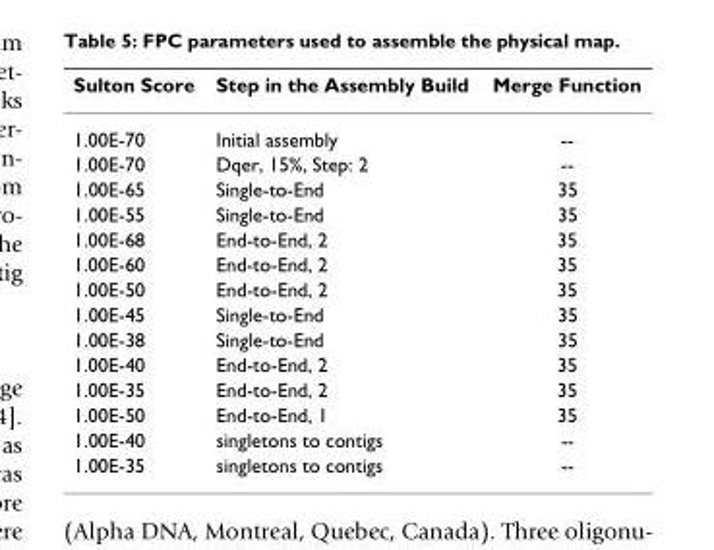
<table><thead><tr><td>Sulton Score</td><td>Step in the Assembly Build</td><td>Merge Function</td></tr></thead><tbody><tr><td>1.00E-70</td><td>Initial assembly</td><td>--</td></tr><tr><td>1.00E-70</td><td>Dqer, 15%, Step: 2</td><td>--</td></tr><tr><td>1.00E-65</td><td>Single-to-End</td><td>35</td></tr><tr><td>1.00E-55</td><td>Single-to-End</td><td>35</td></tr><tr><td>1.00E-68</td><td>End-to-End, 2</td><td>35</td></tr><tr><td>1.00E-60</td><td>End-to-End, 2</td><td>35</td></tr><tr><td>1.00E-50</td><td>End-to-End, 2</td><td>35</td></tr><tr><td>1.00E-45</td><td>Single-to-End</td><td>35</td></tr><tr><td>1.00E-38</td><td>Single-to-End</td><td>35</td></tr><tr><td>1.00E-40</td><td>End-to-End, 2</td><td>35</td></tr><tr><td>1.00E-35</td><td>End-to-End, 2</td><td>35</td></tr><tr><td>1.00E-50</td><td>End-to-End, 1</td><td>35</td></tr><tr><td>1.00E-40</td><td>singletons to contigs</td><td>--</td></tr><tr><td>1.00E-35</td><td>singletons to contigs</td><td>--</td></tr></tbody></table>